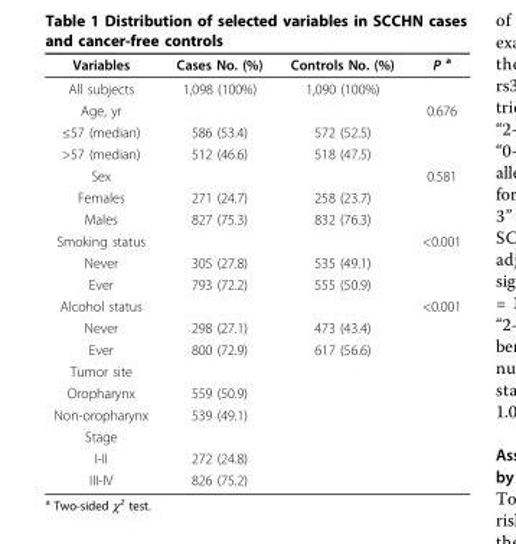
<table><thead><tr><td>Variables</td><td>Cases No. (%)</td><td>Controls No. (%)</td><td>P <sup>a</sup></td></tr></thead><tbody><tr><td>All subjects</td><td>1,098 (100%)</td><td>1,090 (100%)</td><td></td></tr><tr><td>Age, yr</td><td></td><td></td><td>0.676</td></tr><tr><td>≤57 (median)</td><td>586 (53.4)</td><td>572 (52.5)</td><td></td></tr><tr><td>&gt;57 (median)</td><td>512 (46.6)</td><td>518 (47.5)</td><td></td></tr><tr><td>Sex</td><td></td><td></td><td>0.581</td></tr><tr><td>Females</td><td>271 (24.7)</td><td>258 (23.7)</td><td></td></tr><tr><td>Males</td><td>827 (75.3)</td><td>832 (76.3)</td><td></td></tr><tr><td>Smoking status</td><td></td><td></td><td>&lt;0.001</td></tr><tr><td>Never</td><td>305 (27.8)</td><td>535 (49.1)</td><td></td></tr><tr><td>Ever</td><td>793 (72.2)</td><td>555 (50.9)</td><td></td></tr><tr><td>Alcohol status</td><td></td><td></td><td>&lt;0.001</td></tr><tr><td>Never</td><td>298 (27.1)</td><td>473 (43.4)</td><td></td></tr><tr><td>Ever</td><td>800 (72.9)</td><td>617 (56.6)</td><td></td></tr><tr><td colspan="4">Tumor site</td></tr><tr><td>Oropharynx</td><td>559 (50.9)</td><td></td><td></td></tr><tr><td>Non-oropharynx</td><td>539 (49.1)</td><td></td><td></td></tr><tr><td colspan="4">Stage</td></tr><tr><td>I-II</td><td>272 (24.8)</td><td></td><td></td></tr><tr><td>III-IV</td><td>826 (75.2)</td><td></td><td></td></tr></tbody></table>